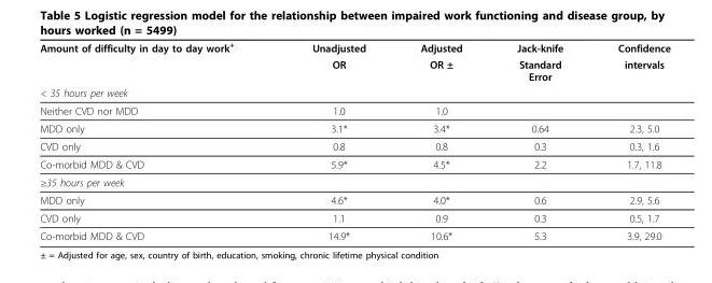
<table><thead><tr><td rowspan="3">Amount of difficulty in day to day work+ &lt; 35 hours per week</td><td rowspan="3">Unadjusted OR</td><td rowspan="3">Adjusted OR ±</td><td rowspan="3">Jack-knife Standard Error</td><td rowspan="3">Confidence intervals</td></tr><tr></tr><tr></tr></thead><tbody><tr><td>Neither CVD nor MDD</td><td>1.0</td><td>1.0</td><td></td><td></td></tr><tr><td>MDD only</td><td>3.1*</td><td>3.4*</td><td>0.64</td><td>2.3, 5.0</td></tr><tr><td>CVD only</td><td>0.8</td><td>0.8</td><td>0.3</td><td>0.3, 1.6</td></tr><tr><td>Co-morbid MDD &amp; CVD</td><td>5.9*</td><td>4.5*</td><td>2.2</td><td>1.7, 11.8</td></tr><tr><td colspan="5">≥35 hours per week</td></tr><tr><td>MDD only</td><td>4.6*</td><td>4.0*</td><td>0.6</td><td>2.9, 5.6</td></tr><tr><td>CVD only</td><td>1.1</td><td>0.9</td><td>0.3</td><td>0.5, 1.7</td></tr><tr><td>Co-morbid MDD &amp; CVD</td><td>14.9*</td><td>10.6*</td><td>5.3</td><td>3.9, 29.0</td></tr></tbody></table>